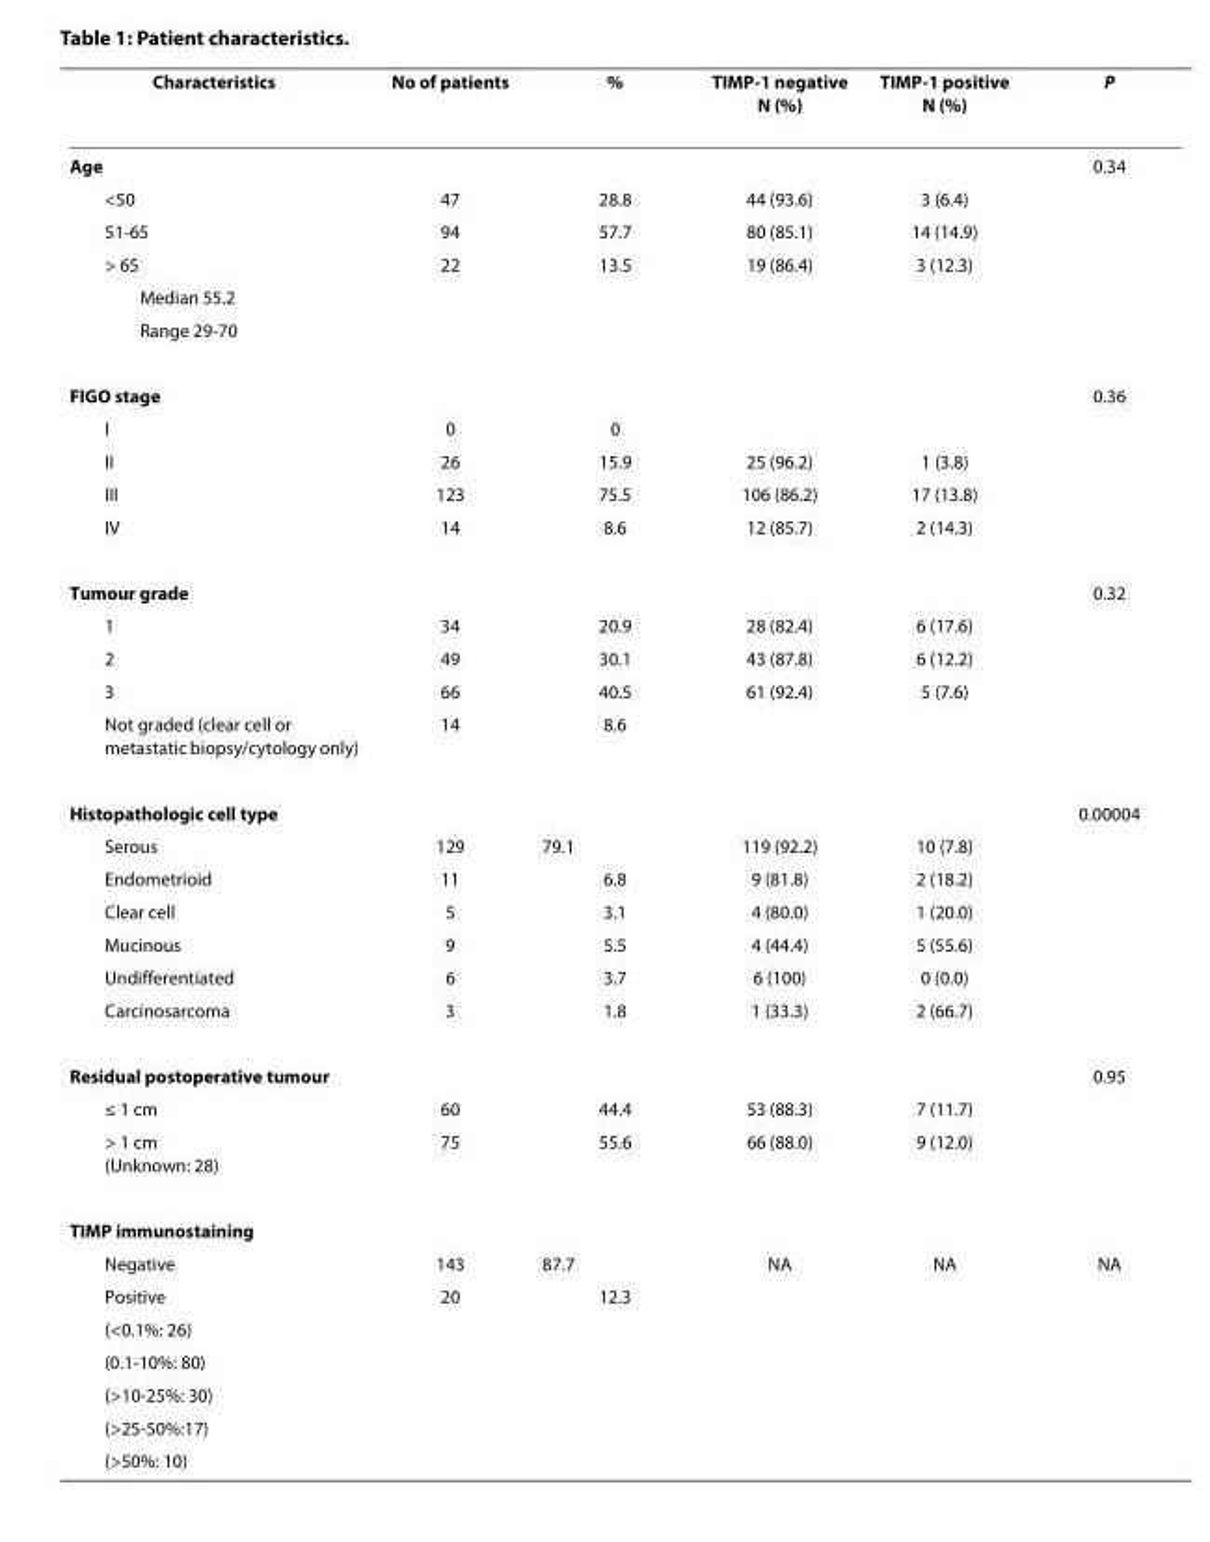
<table><thead><tr><td>Characteristics</td><td>No of patients</td><td>%</td><td>TIMP-1 negative N (%)</td><td>TIMP-1 positive N (%)</td><td>P</td></tr></thead><tbody><tr><td>Age</td><td></td><td></td><td></td><td></td><td>0.34</td></tr><tr><td>&lt;50</td><td>47</td><td>28.8</td><td>44 (93.6)</td><td>3 (6.4)</td><td></td></tr><tr><td>51-65</td><td>94</td><td>57.7</td><td>80 (85.1)</td><td>14 (14.9)</td><td></td></tr><tr><td>&gt; 65</td><td>22</td><td>13.5</td><td>19 (86.4)</td><td>3 (12.3)</td><td></td></tr><tr><td colspan="6">Median 55.2</td></tr><tr><td colspan="6">Range 29-70</td></tr><tr><td>FIGO stage</td><td></td><td></td><td></td><td></td><td>0.36</td></tr><tr><td>I</td><td>0</td><td>0</td><td></td><td></td><td></td></tr><tr><td>II</td><td>26</td><td>15.9</td><td>25 (96.2)</td><td>1 (3.8)</td><td></td></tr><tr><td>III</td><td>123</td><td>75.5</td><td>106 (86.2)</td><td>17 (13.8)</td><td></td></tr><tr><td>IV</td><td>14</td><td>8.6</td><td>12 (85.7)</td><td>2 (14.3)</td><td></td></tr><tr><td>Tumour grade</td><td></td><td></td><td></td><td></td><td>0.32</td></tr><tr><td>1</td><td>34</td><td>20.9</td><td>28 (82.4)</td><td>6 (17.6)</td><td></td></tr><tr><td>2</td><td>49</td><td>30.1</td><td>43 (87.8)</td><td>6 (12.2)</td><td></td></tr><tr><td>3</td><td>66</td><td>40.5</td><td>61 (92.4)</td><td>5 (7.6)</td><td></td></tr><tr><td>Not graded (clear cell or metastatic biopsy/cytology only)</td><td>14</td><td>8.6</td><td></td><td></td><td></td></tr><tr><td>Histopathologic cell type</td><td></td><td></td><td></td><td></td><td>0.00004</td></tr><tr><td>Serous</td><td>129</td><td>79.1</td><td>119 (92.2)</td><td>10 (7.8)</td><td></td></tr><tr><td>Endometrioid</td><td>11</td><td>6.8</td><td>9 (81.8)</td><td>2 (18.2)</td><td></td></tr><tr><td>Clear cell</td><td>5</td><td>3.1</td><td>4 (80.0)</td><td>1 (20.0)</td><td></td></tr><tr><td>Mucinous</td><td>9</td><td>5.5</td><td>4 (44.4)</td><td>5 (55.6)</td><td></td></tr><tr><td>Undifferentiated</td><td>6</td><td>3.7</td><td>6 (100)</td><td>0 (0.0)</td><td></td></tr><tr><td>Carcinosarcoma</td><td>3</td><td>1.8</td><td>1 (33.3)</td><td>2 (66.7)</td><td></td></tr><tr><td>Residual postoperative tumour</td><td></td><td></td><td></td><td></td><td>0.95</td></tr><tr><td>≤ 1 cm</td><td>60</td><td>44.4</td><td>53 (88.3)</td><td>7 (11.7)</td><td></td></tr><tr><td>&gt; 1 cm (Unknown: 28)</td><td>75</td><td>55.6</td><td>66 (88.0)</td><td>9 (12.0)</td><td></td></tr><tr><td colspan="6">TIMP immunostaining</td></tr><tr><td>Negative</td><td>143</td><td>87.7</td><td>NA</td><td>NA</td><td>NA</td></tr><tr><td>Positive</td><td>20</td><td>12.3</td><td></td><td></td><td></td></tr><tr><td colspan="6">(&lt;0.1%: 26)</td></tr><tr><td colspan="6">(0.1-10%: 80)</td></tr><tr><td colspan="6">(&gt;10-25%: 30)</td></tr><tr><td colspan="6">(&gt;25-50%:17)</td></tr><tr><td>(&gt;50%: 10)</td><td></td><td></td><td></td><td></td><td></td></tr></tbody></table>